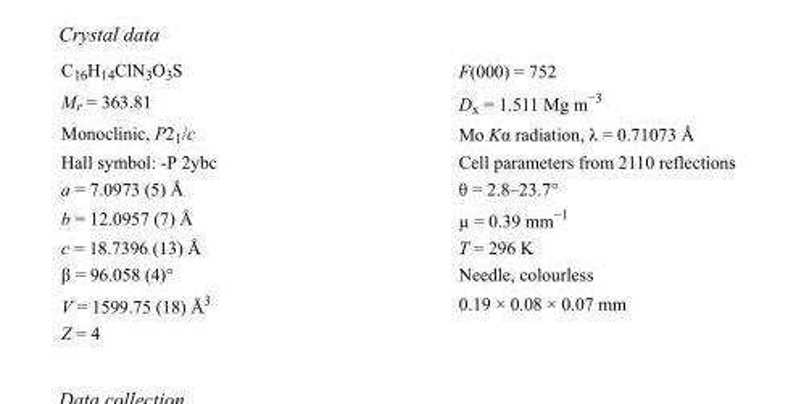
<table><tbody><tr><td>C<sub>16</sub>H<sub>14</sub>ClN<sub>3</sub>O<sub>3</sub>S</td><td>F(000) = 752</td></tr><tr><td>M<sub>r</sub> = 363.81</td><td>D<sub>x</sub> = 1.511 Mg m<sup>−3</sup></td></tr><tr><td>Monoclinic, P2<sub>1</sub>/c</td><td>Mo Kα radiation, λ = 0.71073 Å</td></tr><tr><td>Hall symbol: -P 2ybc</td><td>Cell parameters from 2110 reflections</td></tr><tr><td>a = 7.0973 (5) Å</td><td>θ = 2.8–23.7°</td></tr><tr><td>b = 12.0957 (7) Å</td><td>µ = 0.39 mm<sup>−1</sup></td></tr><tr><td>c = 18.7396 (13) Å</td><td>T = 296 K</td></tr><tr><td>β = 96.058 (4)°</td><td>Needle, colourless</td></tr><tr><td>V = 1599.75 (18) Å<sup>3</sup></td><td>0.19 × 0.08 × 0.07 mm</td></tr><tr><td>Z = 4</td><td></td></tr></tbody></table>